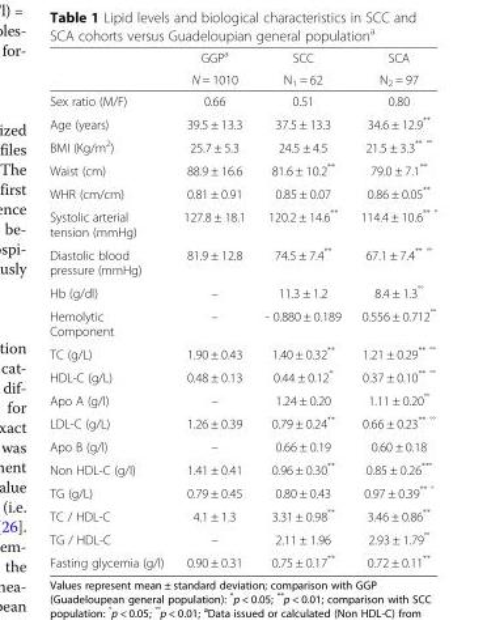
<table><thead><tr><td rowspan="2"></td><td rowspan="2">GGP<sup>a</sup> N = 1010</td><td rowspan="2">SCC N<sub>1</sub> = 62</td><td rowspan="2">SCA N<sub>2</sub> = 97</td></tr><tr></tr></thead><tbody><tr><td>Sex ratio (M/F)</td><td>0.66</td><td>0.51</td><td>0.80</td></tr><tr><td>Age (years)</td><td>39.5 ± 13.3</td><td>37.5 ± 13.3</td><td>34.6 ± 12.9**</td></tr><tr><td>BMI (Kg/m<sup>2</sup>)</td><td>25.7 ± 5.3</td><td>24.5 ± 4.5</td><td>21.5 ± 3.3<sup>** °°</sup></td></tr><tr><td>Waist (cm)</td><td>88.9 ± 16.6</td><td>81.6 ± 10.2**</td><td>79.0 ± 7.1**</td></tr><tr><td>WHR (cm/cm)</td><td>0.81 ± 0.91</td><td>0.85 ± 0.07</td><td>0.86 ± 0.05**</td></tr><tr><td>Systolic arterial tension (mmHg)</td><td>127.8 ± 18.1</td><td>120.2 ± 14.6**</td><td>114.4 ± 10.6<sup>** °</sup></td></tr><tr><td>Diastolic blood pressure (mmHg)</td><td>81.9 ± 12.8</td><td>74.5 ± 7.4**</td><td>67.1 ± 7.4<sup>** °°</sup></td></tr><tr><td>Hb (g/dl)</td><td>–</td><td>11.3 ± 1.2</td><td>8.4 ± 1.3<sup>°°</sup></td></tr><tr><td>Hemolytic Component</td><td>–</td><td>- 0.880 ± 0.189</td><td>0.556 ± 0.712<sup>°°</sup></td></tr><tr><td>TC (g/L)</td><td>1.90 ± 0.43</td><td>1.40 ± 0.32**</td><td>1.21 ± 0.29<sup>** °°</sup></td></tr><tr><td>HDL-C (g/L)</td><td>0.48 ± 0.13</td><td>0.44 ± 0.12*</td><td>0.37 ± 0.10<sup>** °°</sup></td></tr><tr><td>Apo A (g/l)</td><td>–</td><td>1.24 ± 0.20</td><td>1.11 ± 0.20<sup>°°</sup></td></tr><tr><td>LDL-C (g/L)</td><td>1.26 ± 0.39</td><td>0.79 ± 0.24**</td><td>0.66 ± 0.23<sup>** °°</sup></td></tr><tr><td>Apo B (g/l)</td><td>–</td><td>0.66 ± 0.19</td><td>0.60 ± 0.18</td></tr><tr><td>Non HDL-C (g/l)</td><td>1.41 ± 0.41</td><td>0.96 ± 0.30**</td><td>0.85 ± 0.26<sup>**°</sup></td></tr><tr><td>TG (g/L)</td><td>0.79 ± 0.45</td><td>0.80 ± 0.43</td><td>0.97 ± 0.39<sup>** °</sup></td></tr><tr><td>TC / HDL-C</td><td>4.1 ± 1.3</td><td>3.31 ± 0.98**</td><td>3.46 ± 0.86**</td></tr><tr><td>TG / HDL-C</td><td>–</td><td>2.11 ± 1.96</td><td>2.93 ± 1.79<sup>°°</sup></td></tr><tr><td>Fasting glycemia (g/l)</td><td>0.90 ± 0.31</td><td>0.75 ± 0.17**</td><td>0.72 ± 0.11**</td></tr></tbody></table>